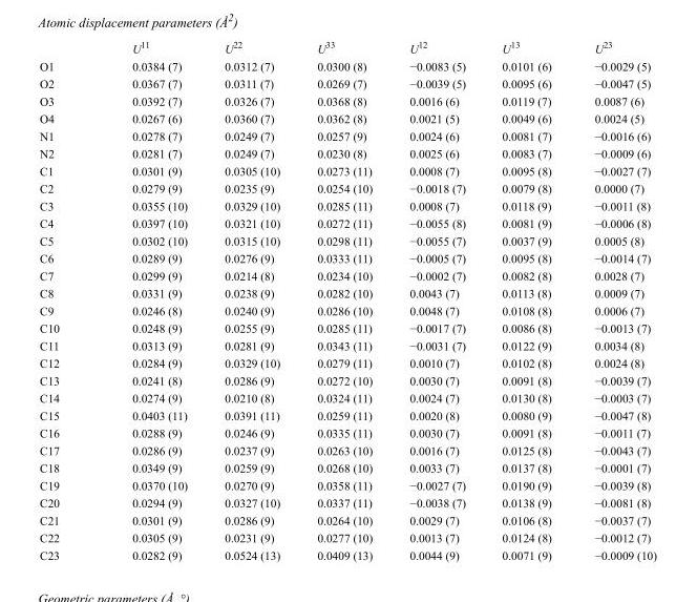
<table><thead><tr><td></td><td>U<sup>11</sup></td><td>U<sup>22</sup></td><td>U<sup>33</sup></td><td>U<sup>12</sup></td><td>U<sup>13</sup></td><td>U<sup>23</sup></td></tr></thead><tbody><tr><td>O1</td><td>0.0384 (7)</td><td>0.0312 (7)</td><td>0.0300 (8)</td><td>−0.0083 (5)</td><td>0.0101 (6)</td><td>−0.0029 (5)</td></tr><tr><td>O2</td><td>0.0367 (7)</td><td>0.0311 (7)</td><td>0.0269 (7)</td><td>−0.0039 (5)</td><td>0.0095 (6)</td><td>−0.0047 (5)</td></tr><tr><td>O3</td><td>0.0392 (7)</td><td>0.0326 (7)</td><td>0.0368 (8)</td><td>0.0016 (6)</td><td>0.0119 (7)</td><td>0.0087 (6)</td></tr><tr><td>O4</td><td>0.0267 (6)</td><td>0.0360 (7)</td><td>0.0362 (8)</td><td>0.0021 (5)</td><td>0.0049 (6)</td><td>0.0024 (5)</td></tr><tr><td>N1</td><td>0.0278 (7)</td><td>0.0249 (7)</td><td>0.0257 (9)</td><td>0.0024 (6)</td><td>0.0081 (7)</td><td>−0.0016 (6)</td></tr><tr><td>N2</td><td>0.0281 (7)</td><td>0.0249 (7)</td><td>0.0230 (8)</td><td>0.0025 (6)</td><td>0.0083 (7)</td><td>−0.0009 (6)</td></tr><tr><td>C1</td><td>0.0301 (9)</td><td>0.0305 (10)</td><td>0.0273 (11)</td><td>0.0008 (7)</td><td>0.0095 (8)</td><td>−0.0027 (7)</td></tr><tr><td>C2</td><td>0.0279 (9)</td><td>0.0235 (9)</td><td>0.0254 (10)</td><td>−0.0018 (7)</td><td>0.0079 (8)</td><td>0.0000 (7)</td></tr><tr><td>C3</td><td>0.0355 (10)</td><td>0.0329 (10)</td><td>0.0285 (11)</td><td>0.0008 (7)</td><td>0.0118 (9)</td><td>−0.0011 (8)</td></tr><tr><td>C4</td><td>0.0397 (10)</td><td>0.0321 (10)</td><td>0.0272 (11)</td><td>−0.0055 (8)</td><td>0.0081 (9)</td><td>−0.0006 (8)</td></tr><tr><td>C5</td><td>0.0302 (10)</td><td>0.0315 (10)</td><td>0.0298 (11)</td><td>−0.0055 (7)</td><td>0.0037 (9)</td><td>0.0005 (8)</td></tr><tr><td>C6</td><td>0.0289 (9)</td><td>0.0276 (9)</td><td>0.0333 (11)</td><td>−0.0005 (7)</td><td>0.0095 (8)</td><td>−0.0014 (7)</td></tr><tr><td>C7</td><td>0.0299 (9)</td><td>0.0214 (8)</td><td>0.0234 (10)</td><td>−0.0002 (7)</td><td>0.0082 (8)</td><td>0.0028 (7)</td></tr><tr><td>C8</td><td>0.0331 (9)</td><td>0.0238 (9)</td><td>0.0282 (10)</td><td>0.0043 (7)</td><td>0.0113 (8)</td><td>0.0009 (7)</td></tr><tr><td>C9</td><td>0.0246 (8)</td><td>0.0240 (9)</td><td>0.0286 (10)</td><td>0.0048 (7)</td><td>0.0108 (8)</td><td>0.0006 (7)</td></tr><tr><td>C10</td><td>0.0248 (9)</td><td>0.0255 (9)</td><td>0.0285 (11)</td><td>−0.0017 (7)</td><td>0.0086 (8)</td><td>−0.0013 (7)</td></tr><tr><td>C11</td><td>0.0313 (9)</td><td>0.0281 (9)</td><td>0.0343 (11)</td><td>−0.0031 (7)</td><td>0.0122 (9)</td><td>0.0034 (8)</td></tr><tr><td>C12</td><td>0.0284 (9)</td><td>0.0329 (10)</td><td>0.0279 (11)</td><td>0.0010 (7)</td><td>0.0102 (8)</td><td>0.0024 (8)</td></tr><tr><td>C13</td><td>0.0241 (8)</td><td>0.0286 (9)</td><td>0.0272 (10)</td><td>0.0030 (7)</td><td>0.0091 (8)</td><td>−0.0039 (7)</td></tr><tr><td>C14</td><td>0.0274 (9)</td><td>0.0210 (8)</td><td>0.0324 (11)</td><td>0.0024 (7)</td><td>0.0130 (8)</td><td>−0.0003 (7)</td></tr><tr><td>C15</td><td>0.0403 (11)</td><td>0.0391 (11)</td><td>0.0259 (11)</td><td>0.0020 (8)</td><td>0.0080 (9)</td><td>−0.0047 (8)</td></tr><tr><td>C16</td><td>0.0288 (9)</td><td>0.0246 (9)</td><td>0.0335 (11)</td><td>0.0030 (7)</td><td>0.0091 (8)</td><td>−0.0011 (7)</td></tr><tr><td>C17</td><td>0.0286 (9)</td><td>0.0237 (9)</td><td>0.0263 (10)</td><td>0.0016 (7)</td><td>0.0125 (8)</td><td>−0.0043 (7)</td></tr><tr><td>C18</td><td>0.0349 (9)</td><td>0.0259 (9)</td><td>0.0268 (10)</td><td>0.0033 (7)</td><td>0.0137 (8)</td><td>−0.0001 (7)</td></tr><tr><td>C19</td><td>0.0370 (10)</td><td>0.0270 (9)</td><td>0.0358 (11)</td><td>−0.0027 (7)</td><td>0.0190 (9)</td><td>−0.0039 (8)</td></tr><tr><td>C20</td><td>0.0294 (9)</td><td>0.0327 (10)</td><td>0.0337 (11)</td><td>−0.0038 (7)</td><td>0.0138 (9)</td><td>−0.0081 (8)</td></tr><tr><td>C21</td><td>0.0301 (9)</td><td>0.0286 (9)</td><td>0.0264 (10)</td><td>0.0029 (7)</td><td>0.0106 (8)</td><td>−0.0037 (7)</td></tr><tr><td>C22</td><td>0.0305 (9)</td><td>0.0231 (9)</td><td>0.0277 (10)</td><td>0.0013 (7)</td><td>0.0124 (8)</td><td>−0.0012 (7)</td></tr><tr><td>C23</td><td>0.0282 (9)</td><td>0.0524 (13)</td><td>0.0409 (13)</td><td>0.0044 (9)</td><td>0.0071 (9)</td><td>−0.0009 (10)</td></tr></tbody></table>